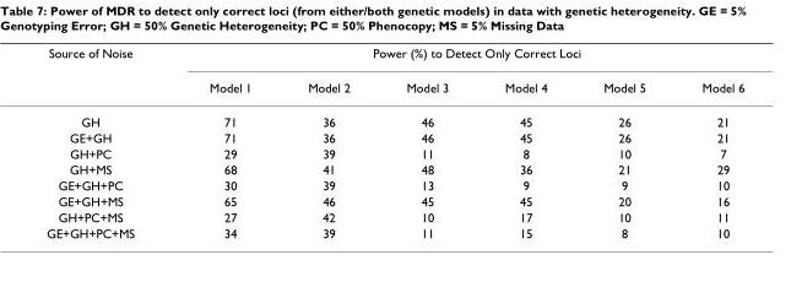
<table><thead><tr><td rowspan="2">Source of Noise</td><td colspan="6">Power (%) to Detect Only Correct Loci</td></tr><tr><td>Model 1</td><td>Model 2</td><td>Model 3</td><td>Model 4</td><td>Model 5</td><td>Model 6</td></tr></thead><tbody><tr><td>GH</td><td>71</td><td>36</td><td>46</td><td>45</td><td>26</td><td>21</td></tr><tr><td>GE+GH</td><td>71</td><td>36</td><td>46</td><td>45</td><td>26</td><td>21</td></tr><tr><td>GH+PC</td><td>29</td><td>39</td><td>11</td><td>8</td><td>10</td><td>7</td></tr><tr><td>GH+MS</td><td>68</td><td>41</td><td>48</td><td>36</td><td>21</td><td>29</td></tr><tr><td>GE+GH+PC</td><td>30</td><td>39</td><td>13</td><td>9</td><td>9</td><td>10</td></tr><tr><td>GE+GH+MS</td><td>65</td><td>46</td><td>45</td><td>45</td><td>20</td><td>16</td></tr><tr><td>GH+PC+MS</td><td>27</td><td>42</td><td>10</td><td>17</td><td>10</td><td>11</td></tr><tr><td>GE+GH+PC+MS</td><td>34</td><td>39</td><td>11</td><td>15</td><td>8</td><td>10</td></tr></tbody></table>